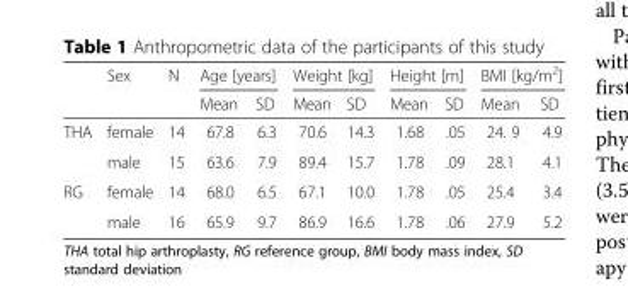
<table><thead><tr><td rowspan="2"></td><td rowspan="2">Sex</td><td rowspan="2">N</td><td colspan="2">Age [years]</td><td colspan="2">Weight [kg]</td><td colspan="2">Height [m]</td><td colspan="2">BMI [kg/m<sup>2</sup>]</td></tr><tr><td>Mean</td><td>SD</td><td>Mean</td><td>SD</td><td>Mean</td><td>SD</td><td>Mean</td><td>SD</td></tr></thead><tbody><tr><td rowspan="2">THA</td><td>female</td><td>14</td><td>67.8</td><td>6.3</td><td>70.6</td><td>14.3</td><td>1.68</td><td>.05</td><td>24. 9</td><td>4.9</td></tr><tr><td>male</td><td>15</td><td>63.6</td><td>7.9</td><td>89.4</td><td>15.7</td><td>1.78</td><td>.09</td><td>28.1</td><td>4.1</td></tr><tr><td rowspan="2">RG</td><td>female</td><td>14</td><td>68.0</td><td>6.5</td><td>67.1</td><td>10.0</td><td>1.78</td><td>.05</td><td>25.4</td><td>3.4</td></tr><tr><td>male</td><td>16</td><td>65.9</td><td>9.7</td><td>86.9</td><td>16.6</td><td>1.78</td><td>.06</td><td>27.9</td><td>5.2</td></tr></tbody></table>